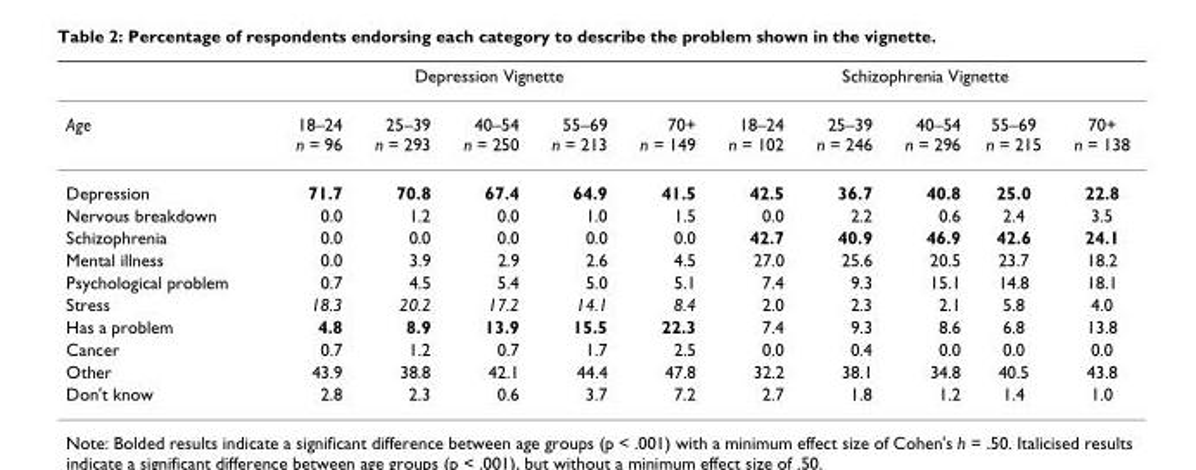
<table><thead><tr><td rowspan="2">Age</td><td colspan="5">Depression Vignette</td><td colspan="5">Schizophrenia Vignette</td></tr><tr><td>18–24 n = 96</td><td>25–39 n = 293</td><td>40–54 n = 250</td><td>55–69 n = 213</td><td>70+ n = 149</td><td>18–24 n = 102</td><td>25–39 n = 246</td><td>40–54 n = 296</td><td>55–69 n = 215</td><td>70+ n = 138</td></tr></thead><tbody><tr><td>Depression</td><td>71.7</td><td>70.8</td><td>67.4</td><td>64.9</td><td>41.5</td><td>42.5</td><td>36.7</td><td>40.8</td><td>25.0</td><td>22.8</td></tr><tr><td>Nervous breakdown</td><td>0.0</td><td>1.2</td><td>0.0</td><td>1.0</td><td>1.5</td><td>0.0</td><td>2.2</td><td>0.6</td><td>2.4</td><td>3.5</td></tr><tr><td>Schizophrenia</td><td>0.0</td><td>0.0</td><td>0.0</td><td>0.0</td><td>0.0</td><td>42.7</td><td>40.9</td><td>46.9</td><td>42.6</td><td>24.1</td></tr><tr><td>Mental illness</td><td>0.0</td><td>3.9</td><td>2.9</td><td>2.6</td><td>4.5</td><td>27.0</td><td>25.6</td><td>20.5</td><td>23.7</td><td>18.2</td></tr><tr><td>Psychological problem</td><td>0.7</td><td>4.5</td><td>5.4</td><td>5.0</td><td>5.1</td><td>7.4</td><td>9.3</td><td>15.1</td><td>14.8</td><td>18.1</td></tr><tr><td>Stress</td><td>18.3</td><td>20.2</td><td>17.2</td><td>14.1</td><td>8.4</td><td>2.0</td><td>2.3</td><td>2.1</td><td>5.8</td><td>4.0</td></tr><tr><td>Has a problem</td><td>4.8</td><td>8.9</td><td>13.9</td><td>15.5</td><td>22.3</td><td>7.4</td><td>9.3</td><td>8.6</td><td>6.8</td><td>13.8</td></tr><tr><td>Cancer</td><td>0.7</td><td>1.2</td><td>0.7</td><td>1.7</td><td>2.5</td><td>0.0</td><td>0.4</td><td>0.0</td><td>0.0</td><td>0.0</td></tr><tr><td>Other</td><td>43.9</td><td>38.8</td><td>42.1</td><td>44.4</td><td>47.8</td><td>32.2</td><td>38.1</td><td>34.8</td><td>40.5</td><td>43.8</td></tr><tr><td>Don&#x27;t know</td><td>2.8</td><td>2.3</td><td>0.6</td><td>3.7</td><td>7.2</td><td>2.7</td><td>1.8</td><td>1.2</td><td>1.4</td><td>1.0</td></tr></tbody></table>